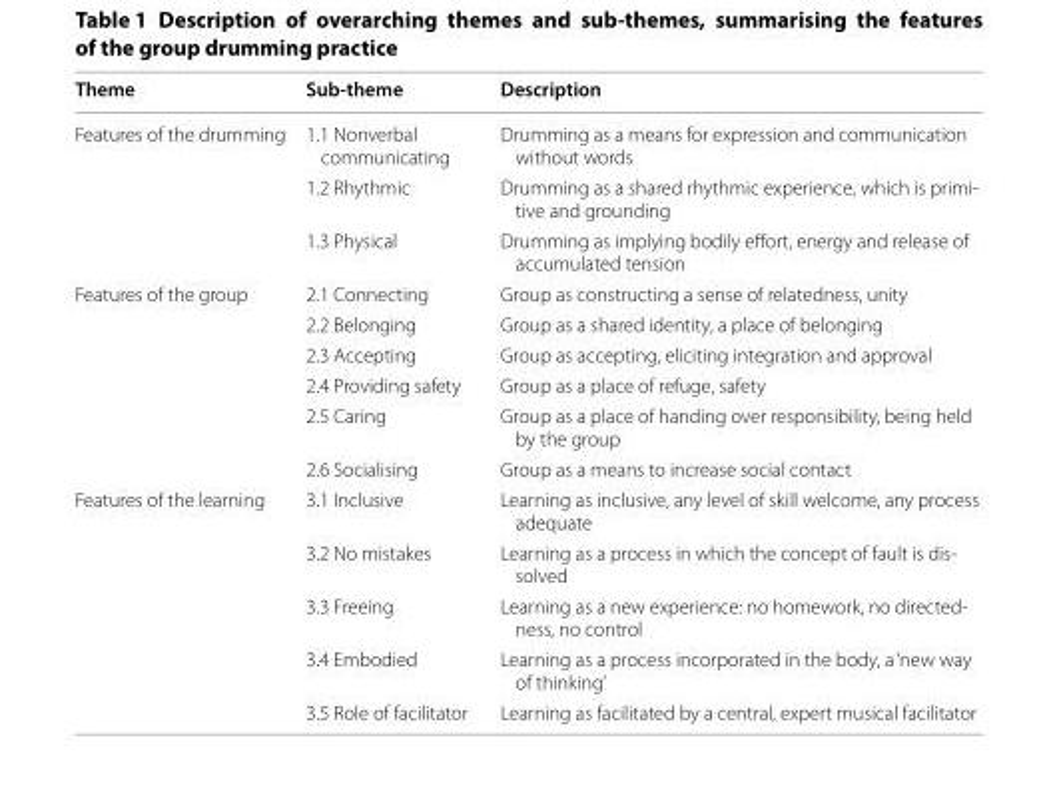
<table><thead><tr><td>Theme</td><td>Sub-theme</td><td>Description</td></tr></thead><tbody><tr><td rowspan="3">Features of the drumming</td><td>1.1 Nonverbal communicating</td><td>Drumming as a means for expression and communication without words</td></tr><tr><td>1.2 Rhythmic</td><td>Drumming as a shared rhythmic experience, which is primi- tive and grounding</td></tr><tr><td>1.3 Physical</td><td>Drumming as implying bodily effort, energy and release of accumulated tension</td></tr><tr><td rowspan="6">Features of the group</td><td>2.1 Connecting</td><td>Group as constructing a sense of relatedness, unity</td></tr><tr><td>2.2 Belonging</td><td>Group as a shared identity, a place of belonging</td></tr><tr><td>2.3 Accepting</td><td>Group as accepting, eliciting integration and approval</td></tr><tr><td>2.4 Providing safety</td><td>Group as a place of refuge, safety</td></tr><tr><td>2.5 Caring</td><td>Group as a place of handing over responsibility, being held by the group</td></tr><tr><td>2.6 Socialising</td><td>Group as a means to increase social contact</td></tr><tr><td rowspan="5">Features of the learning</td><td>3.1 Inclusive</td><td>Learning as inclusive, any level of skill welcome, any process adequate</td></tr><tr><td>3.2 No mistakes</td><td>Learning as a process in which the concept of fault is dis- solved</td></tr><tr><td>3.3 Freeing</td><td>Learning as a new experience: no homework, no directed- ness, no control</td></tr><tr><td>3.4 Embodied</td><td>Learning as a process incorporated in the body, a ‘new way of thinking’</td></tr><tr><td>3.5 Role of facilitator</td><td>Learning as facilitated by a central, expert musical facilitator</td></tr></tbody></table>